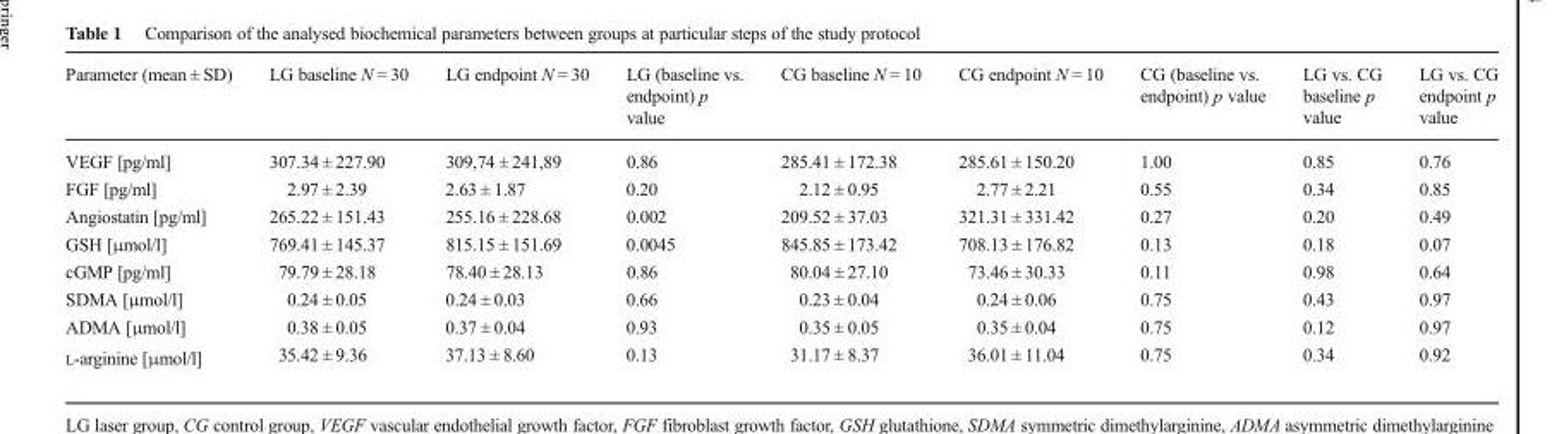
<table><thead><tr><td>Parameter (mean ± SD)</td><td>LG baseline N = 30</td><td>LG endpoint N = 30</td><td>LG (baseline vs. endpoint) p value</td><td>CG baseline N = 10</td><td>CG endpoint N = 10</td><td>CG (baseline vs. endpoint) p value</td><td>LG vs. CG baseline p value</td><td>LG vs. CG endpoint p value</td></tr></thead><tbody><tr><td>VEGF [pg/ml]</td><td>307.34 ± 227.90</td><td>309,74 ± 241,89</td><td>0.86</td><td>285.41 ± 172.38</td><td>285.61 ± 150.20</td><td>1.00</td><td>0.85</td><td>0.76</td></tr><tr><td>FGF [pg/ml]</td><td>2.97 ± 2.39</td><td>2.63 ± 1.87</td><td>0.20</td><td>2.12 ± 0.95</td><td>2.77 ± 2.21</td><td>0.55</td><td>0.34</td><td>0.85</td></tr><tr><td>Angiostatin [pg/ml]</td><td>265.22 ± 151.43</td><td>255.16 ± 228.68</td><td>0.002</td><td>209.52 ± 37.03</td><td>321.31 ± 331.42</td><td>0.27</td><td>0.20</td><td>0.49</td></tr><tr><td>GSH [μmol/l]</td><td>769.41 ± 145.37</td><td>815.15 ± 151.69</td><td>0.0045</td><td>845.85 ± 173.42</td><td>708.13 ± 176.82</td><td>0.13</td><td>0.18</td><td>0.07</td></tr><tr><td>cGMP [pg/ml]</td><td>79.79 ± 28.18</td><td>78.40 ± 28.13</td><td>0.86</td><td>80.04 ± 27.10</td><td>73.46 ± 30.33</td><td>0.11</td><td>0.98</td><td>0.64</td></tr><tr><td>SDMA [μmol/l]</td><td>0.24 ± 0.05</td><td>0.24 ± 0.03</td><td>0.66</td><td>0.23 ± 0.04</td><td>0.24 ± 0.06</td><td>0.75</td><td>0.43</td><td>0.97</td></tr><tr><td>ADMA [μmol/l]</td><td>0.38 ± 0.05</td><td>0.37 ± 0.04</td><td>0.93</td><td>0.35 ± 0.05</td><td>0.35 ± 0.04</td><td>0.75</td><td>0.12</td><td>0.97</td></tr><tr><td>L-arginine [μmol/l]</td><td>35.42 ± 9.36</td><td>37.13 ± 8.60</td><td>0.13</td><td>31.17 ± 8.37</td><td>36.01 ± 11.04</td><td>0.75</td><td>0.34</td><td>0.92</td></tr></tbody></table>